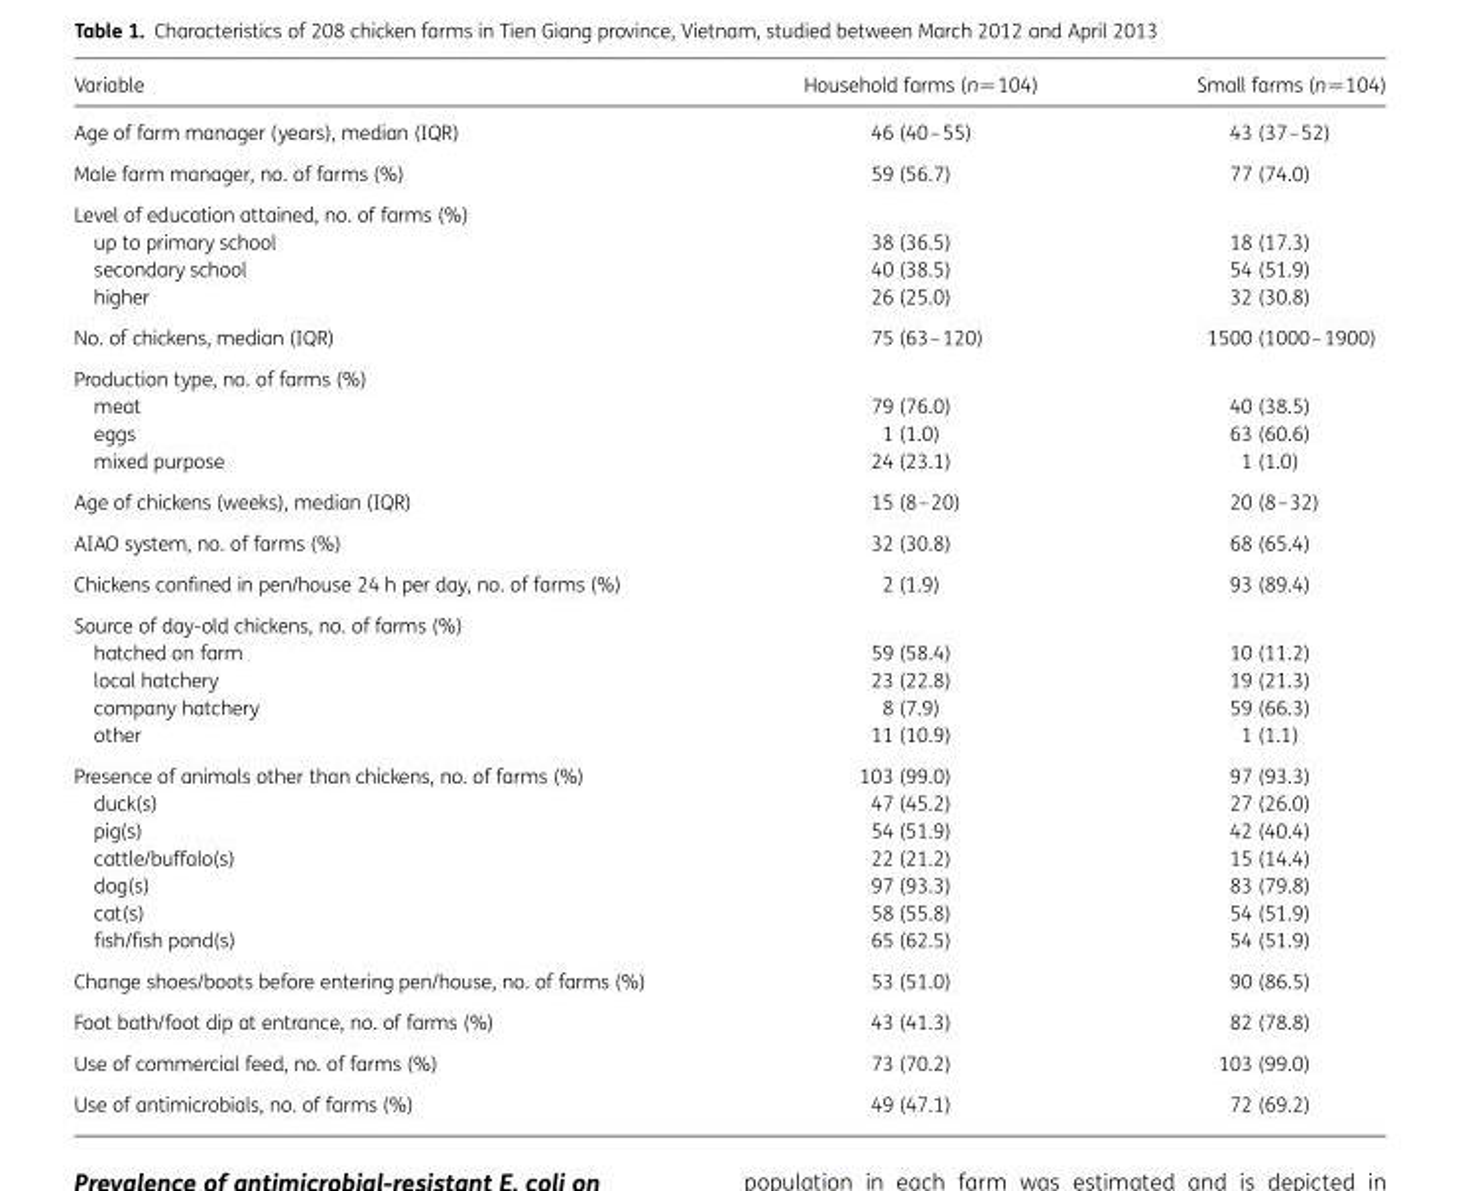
<table><thead><tr><td>Variable</td><td>Household farms (n=104)</td><td>Small farms (n=104)</td></tr></thead><tbody><tr><td>Age of farm manager (years), median (IQR)</td><td>46 (40–55)</td><td>43 (37–52)</td></tr><tr><td>Male farm manager, no. of farms (%)</td><td>59 (56.7)</td><td>77 (74.0)</td></tr><tr><td colspan="3">Level of education attained, no. of farms (%)</td></tr><tr><td>up to primary school</td><td>38 (36.5)</td><td>18 (17.3)</td></tr><tr><td>secondary school</td><td>40 (38.5)</td><td>54 (51.9)</td></tr><tr><td>higher</td><td>26 (25.0)</td><td>32 (30.8)</td></tr><tr><td>No. of chickens, median (IQR)</td><td>75 (63–120)</td><td>1500 (1000–1900)</td></tr><tr><td colspan="3">Production type, no. of farms (%)</td></tr><tr><td>meat</td><td>79 (76.0)</td><td>40 (38.5)</td></tr><tr><td>eggs</td><td>1 (1.0)</td><td>63 (60.6)</td></tr><tr><td>mixed purpose</td><td>24 (23.1)</td><td>1 (1.0)</td></tr><tr><td>Age of chickens (weeks), median (IQR)</td><td>15 (8–20)</td><td>20 (8–32)</td></tr><tr><td>AIAO system, no. of farms (%)</td><td>32 (30.8)</td><td>68 (65.4)</td></tr><tr><td>Chickens confined in pen/house 24 h per day, no. of farms (%)</td><td>2 (1.9)</td><td>93 (89.4)</td></tr><tr><td colspan="3">Source of day-old chickens, no. of farms (%)</td></tr><tr><td>hatched on farm</td><td>59 (58.4)</td><td>10 (11.2)</td></tr><tr><td>local hatchery</td><td>23 (22.8)</td><td>19 (21.3)</td></tr><tr><td>company hatchery</td><td>8 (7.9)</td><td>59 (66.3)</td></tr><tr><td>other</td><td>11 (10.9)</td><td>1 (1.1)</td></tr><tr><td>Presence of animals other than chickens, no. of farms (%)</td><td>103 (99.0)</td><td>97 (93.3)</td></tr><tr><td>duck(s)</td><td>47 (45.2)</td><td>27 (26.0)</td></tr><tr><td>pig(s)</td><td>54 (51.9)</td><td>42 (40.4)</td></tr><tr><td>cattle/buffalo(s)</td><td>22 (21.2)</td><td>15 (14.4)</td></tr><tr><td>dog(s)</td><td>97 (93.3)</td><td>83 (79.8)</td></tr><tr><td>cat(s)</td><td>58 (55.8)</td><td>54 (51.9)</td></tr><tr><td>fish/fish pond(s)</td><td>65 (62.5)</td><td>54 (51.9)</td></tr><tr><td>Change shoes/boots before entering pen/house, no. of farms (%)</td><td>53 (51.0)</td><td>90 (86.5)</td></tr><tr><td>Foot bath/foot dip at entrance, no. of farms (%)</td><td>43 (41.3)</td><td>82 (78.8)</td></tr><tr><td>Use of commercial feed, no. of farms (%)</td><td>73 (70.2)</td><td>103 (99.0)</td></tr><tr><td>Use of antimicrobials, no. of farms (%)</td><td>49 (47.1)</td><td>72 (69.2)</td></tr></tbody></table>